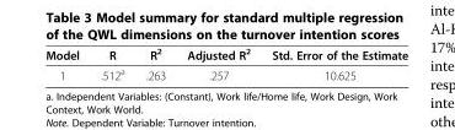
<table><thead><tr><td>Model</td><td>R</td><td>R<sup>2</sup></td><td>Adjusted R<sup>2</sup></td><td>Std. Error of the Estimate</td></tr></thead><tbody><tr><td>1</td><td>.512<sup>a</sup></td><td>.263</td><td>.257</td><td>10.625</td></tr></tbody></table>